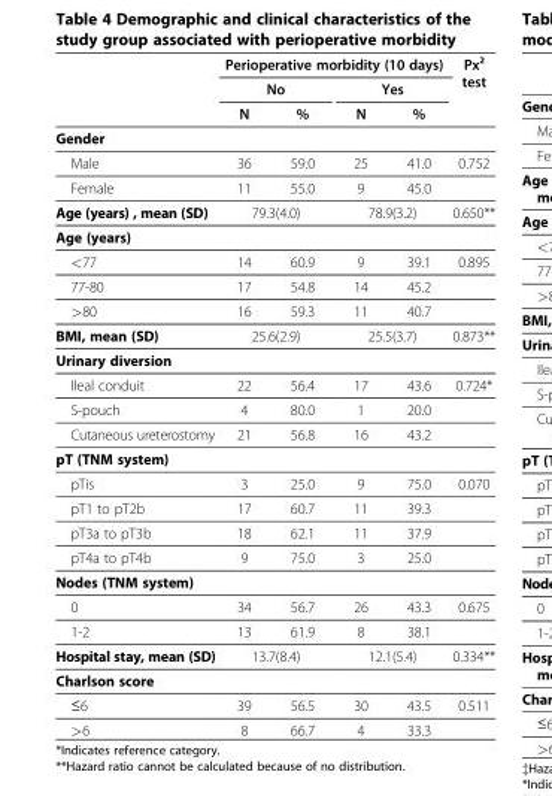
<table><thead><tr><td rowspan="3"></td><td colspan="4">Perioperative morbidity (10 days)</td><td rowspan="3">Px² test</td></tr><tr><td colspan="2">No</td><td colspan="2">Yes</td></tr><tr><td>N</td><td>%</td><td>N</td><td>%</td></tr></thead><tbody><tr><td colspan="6">Gender</td></tr><tr><td>Male</td><td>36</td><td>59.0</td><td>25</td><td>41.0</td><td>0.752</td></tr><tr><td>Female</td><td>11</td><td>55.0</td><td>9</td><td>45.0</td><td></td></tr><tr><td>Age (years) , mean (SD)</td><td colspan="2">79.3(4.0)</td><td colspan="2">78.9(3.2)</td><td>0.650**</td></tr><tr><td colspan="6">Age (years)</td></tr><tr><td>&lt;77</td><td>14</td><td>60.9</td><td>9</td><td>39.1</td><td>0.895</td></tr><tr><td>77-80</td><td>17</td><td>54.8</td><td>14</td><td>45.2</td><td></td></tr><tr><td>&gt;80</td><td>16</td><td>59.3</td><td>11</td><td>40.7</td><td></td></tr><tr><td>BMI, mean (SD)</td><td colspan="2">25.6(2.9)</td><td colspan="2">25.5(3.7)</td><td>0.873**</td></tr><tr><td colspan="6">Urinary diversion</td></tr><tr><td>Ileal conduit</td><td>22</td><td>56.4</td><td>17</td><td>43.6</td><td>0.724*</td></tr><tr><td>S-pouch</td><td>4</td><td>80.0</td><td>1</td><td>20.0</td><td></td></tr><tr><td>Cutaneous ureterostomy</td><td>21</td><td>56.8</td><td>16</td><td>43.2</td><td></td></tr><tr><td colspan="6">pT (TNM system)</td></tr><tr><td>pTis</td><td>3</td><td>25.0</td><td>9</td><td>75.0</td><td>0.070</td></tr><tr><td>pT1 to pT2b</td><td>17</td><td>60.7</td><td>11</td><td>39.3</td><td></td></tr><tr><td>pT3a to pT3b</td><td>18</td><td>62.1</td><td>11</td><td>37.9</td><td></td></tr><tr><td>pT4a to pT4b</td><td>9</td><td>75.0</td><td>3</td><td>25.0</td><td></td></tr><tr><td colspan="6">Nodes (TNM system)</td></tr><tr><td>0</td><td>34</td><td>56.7</td><td>26</td><td>43.3</td><td>0.675</td></tr><tr><td>1-2</td><td>13</td><td>61.9</td><td>8</td><td>38.1</td><td></td></tr><tr><td>Hospital stay, mean (SD)</td><td colspan="2">13.7(8.4)</td><td colspan="2">12.1(5.4)</td><td>0.334**</td></tr><tr><td colspan="6">Charlson score</td></tr><tr><td>≤6</td><td>39</td><td>56.5</td><td>30</td><td>43.5</td><td>0.511</td></tr><tr><td>&gt;6</td><td>8</td><td>66.7</td><td>4</td><td>33.3</td><td></td></tr></tbody></table>